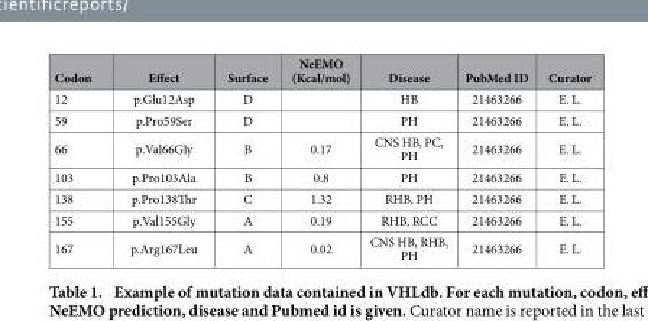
<table><thead><tr><td>Codon</td><td>Effect</td><td>Surface</td><td>NeEMO (Kcal/mol)</td><td>Disease</td><td>PubMed ID</td><td>Curator</td></tr></thead><tbody><tr><td>12</td><td>p.Glu12Asp</td><td>D</td><td></td><td>HB</td><td>21463266</td><td>E. L.</td></tr><tr><td>59</td><td>p.Pro59Ser</td><td>D</td><td></td><td>PH</td><td>21463266</td><td>E. L.</td></tr><tr><td>66</td><td>p.Val66Gly</td><td>B</td><td>0.17</td><td>CNS HB, PC, PH</td><td>21463266</td><td>E. L.</td></tr><tr><td>103</td><td>p.Pro103Ala</td><td>B</td><td>0.8</td><td>PH</td><td>21463266</td><td>E. L.</td></tr><tr><td>138</td><td>p.Pro138Thr</td><td>C</td><td>1.32</td><td>RHB, PH</td><td>21463266</td><td>E. L.</td></tr><tr><td>155</td><td>p.Val155Gly</td><td>A</td><td>0.19</td><td>RHB, RCC</td><td>21463266</td><td>E. L.</td></tr><tr><td>167</td><td>p.Arg167Leu</td><td>A</td><td>0.02</td><td>CNS HB, RHB, PH</td><td>21463266</td><td>E. L.</td></tr></tbody></table>